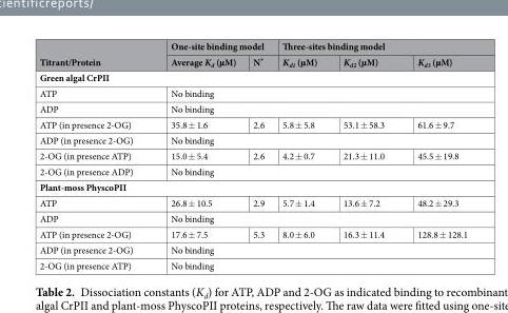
<table><thead><tr><td rowspan="2">Titrant/Protein</td><td colspan="2">One-site binding model</td><td colspan="3">Three-sites binding model</td></tr><tr><td>Average K<sub>d</sub> (µM)</td><td>N*</td><td>K<sub>d1</sub> (µM)</td><td>K<sub>d2</sub> (µM)</td><td>K<sub>d3</sub> (µM)</td></tr></thead><tbody><tr><td colspan="6">Green algal CrPII</td></tr><tr><td>ATP</td><td colspan="5">No binding</td></tr><tr><td>ADP</td><td colspan="5">No binding</td></tr><tr><td>ATP (in presence 2-OG)</td><td>35.8 ± 1.6</td><td>2.6</td><td>5.8 ± 5.8</td><td>53.1 ± 58.3</td><td>61.6 ± 9.7</td></tr><tr><td>ADP (in presence 2-OG)</td><td colspan="5">No binding</td></tr><tr><td>2-OG (in presence ATP)</td><td>15.0 ± 5.4</td><td>2.6</td><td>4.2 ± 0.7</td><td>21.3 ± 11.0</td><td>45.5 ± 19.8</td></tr><tr><td>2-OG (in presence ADP)</td><td colspan="5">No binding</td></tr><tr><td colspan="6">Plant-moss PhyscoPII</td></tr><tr><td>ATP</td><td>26.8 ± 10.5</td><td>2.9</td><td>5.7 ± 1.4</td><td>13.6 ± 7.2</td><td>48.2 ± 29.3</td></tr><tr><td>ADP</td><td colspan="5">No binding</td></tr><tr><td>ATP (in presence 2-OG)</td><td>17.6 ± 7.5</td><td>5.3</td><td>8.0 ± 6.0</td><td>16.3 ± 11.4</td><td>128.8 ± 128.1</td></tr><tr><td>ADP (in presence 2-OG)</td><td colspan="5">No binding</td></tr><tr><td>2-OG (in presence ATP)</td><td colspan="5">No binding</td></tr></tbody></table>